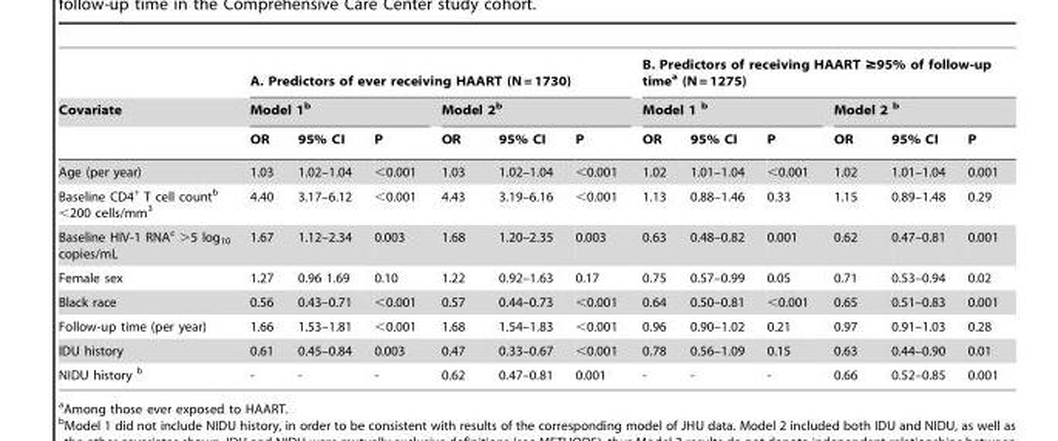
<table><thead><tr><td rowspan="3">Covariate</td><td colspan="6">A. Predictors of ever receiving HAART (N = 1730)</td><td colspan="6">B. Predictors of receiving HAART ≥95% of follow-up time<sup>a</sup> (N = 1275)</td></tr><tr><td colspan="3">Model 1b</td><td colspan="3">Model 2<sup>b</sup></td><td colspan="3">Model 1 b</td><td colspan="3">Model 2 b</td></tr><tr><td>OR</td><td>95% CI</td><td>P</td><td>OR</td><td>95% CI</td><td>P</td><td>OR</td><td>95% CI</td><td>P</td><td>OR</td><td>95% CI</td><td>P</td></tr></thead><tbody><tr><td>Age (per year)</td><td>1.03</td><td>1.02–1.04</td><td>&lt;0.001</td><td>1.03</td><td>1.02–1.04</td><td>&lt;0.001</td><td>1.02</td><td>1.01–1.04</td><td>&lt;0.001</td><td>1.02</td><td>1.01–1.04</td><td>0.001</td></tr><tr><td>Baseline CD4<sup>+</sup> T cell count<sup>b</sup> &lt;200 cells/mm<sup>3</sup></td><td>4.40</td><td>3.17–6.12</td><td>&lt;0.001</td><td>4.43</td><td>3.19–6.16</td><td>&lt;0.001</td><td>1.13</td><td>0.88–1.46</td><td>0.33</td><td>1.15</td><td>0.89–1.48</td><td>0.29</td></tr><tr><td>Baseline HIV-1 RNA<sup>c</sup> &gt;5 log<sub>10</sub> copies/mL</td><td>1.67</td><td>1.12–2.34</td><td>0.003</td><td>1.68</td><td>1.20–2.35</td><td>0.003</td><td>0.63</td><td>0.48–0.82</td><td>0.001</td><td>0.62</td><td>0.47–0.81</td><td>0.001</td></tr><tr><td>Female sex</td><td>1.27</td><td>0.96 1.69</td><td>0.10</td><td>1.22</td><td>0.92–1.63</td><td>0.17</td><td>0.75</td><td>0.57–0.99</td><td>0.05</td><td>0.71</td><td>0.53–0.94</td><td>0.02</td></tr><tr><td>Black race</td><td>0.56</td><td>0.43–0.71</td><td>&lt;0.001</td><td>0.57</td><td>0.44–0.73</td><td>&lt;0.001</td><td>0.64</td><td>0.50–0.81</td><td>&lt;0.001</td><td>0.65</td><td>0.51–0.83</td><td>0.001</td></tr><tr><td>Follow-up time (per year)</td><td>1.66</td><td>1.53–1.81</td><td>&lt;0.001</td><td>1.68</td><td>1.54–1.83</td><td>&lt;0.001</td><td>0.96</td><td>0.90–1.02</td><td>0.21</td><td>0.97</td><td>0.91–1.03</td><td>0.28</td></tr><tr><td>IDU history</td><td>0.61</td><td>0.45–0.84</td><td>0.003</td><td>0.47</td><td>0.33–0.67</td><td>&lt;0.001</td><td>0.78</td><td>0.56–1.09</td><td>0.15</td><td>0.63</td><td>0.44–0.90</td><td>0.01</td></tr><tr><td>NIDU history b</td><td>-</td><td>-</td><td>-</td><td>0.62</td><td>0.47–0.81</td><td>0.001</td><td>-</td><td>-</td><td>-</td><td>0.66</td><td>0.52–0.85</td><td>0.001</td></tr></tbody></table>